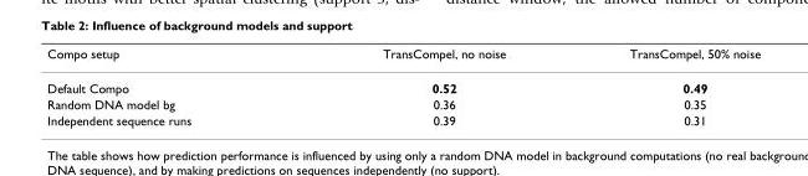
<table><thead><tr><td>Compo setup</td><td>TransCompel, no noise</td><td>TransCompel, 50% noise</td></tr></thead><tbody><tr><td>Default Compo</td><td>0.52</td><td>0.49</td></tr><tr><td>Random DNA model bg</td><td>0.36</td><td>0.35</td></tr><tr><td>Independent sequence runs</td><td>0.39</td><td>0.31</td></tr></tbody></table>